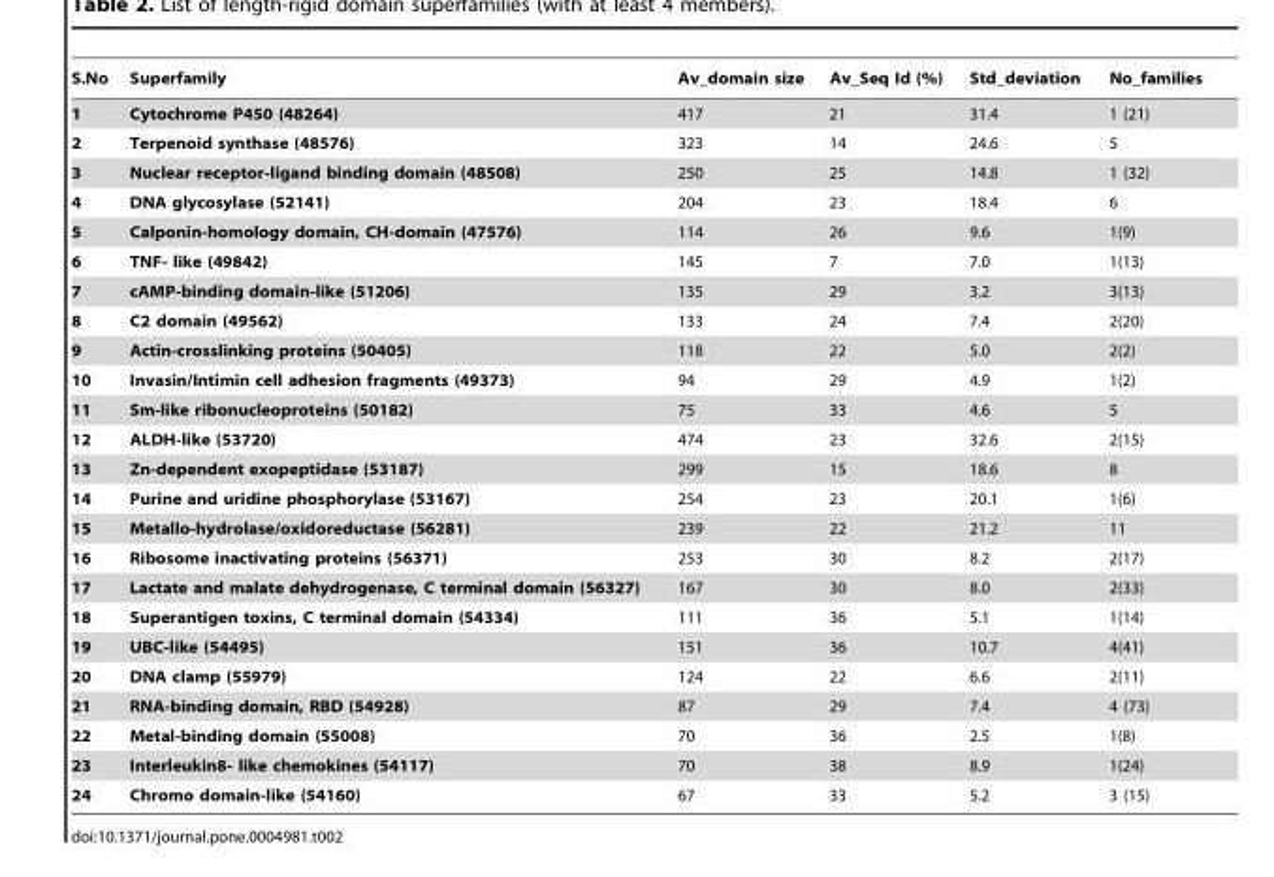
<table><thead><tr><td>S.No</td><td>Superfamily</td><td>Av_domain size</td><td>Av_Seq Id (%)</td><td>Std_deviation</td><td>No_families</td></tr></thead><tbody><tr><td>1</td><td>Cytochrome P450 (48264)</td><td>417</td><td>21</td><td>31.4</td><td>1 (21)</td></tr><tr><td>2</td><td>Terpenoid synthase (48576)</td><td>323</td><td>14</td><td>24.6</td><td>5</td></tr><tr><td>3</td><td>Nuclear receptor-ligand binding domain (48508)</td><td>250</td><td>25</td><td>14.8</td><td>1 (32)</td></tr><tr><td>4</td><td>DNA glycosylase (52141)</td><td>204</td><td>23</td><td>18.4</td><td>6</td></tr><tr><td>5</td><td>Calponin-homology domain, CH-domain (47576)</td><td>114</td><td>26</td><td>9.6</td><td>1(9)</td></tr><tr><td>6</td><td>TNF- like (49842)</td><td>145</td><td>7</td><td>7.0</td><td>1(13)</td></tr><tr><td>7</td><td>cAMP-binding domain-like (51206)</td><td>135</td><td>29</td><td>3.2</td><td>3(13)</td></tr><tr><td>8</td><td>C2 domain (49562)</td><td>133</td><td>24</td><td>7.4</td><td>2(20)</td></tr><tr><td>9</td><td>Actin-crosslinking proteins (50405)</td><td>118</td><td>22</td><td>5.0</td><td>2(2)</td></tr><tr><td>10</td><td>Invasin/Intimin cell adhesion fragments (49373)</td><td>94</td><td>29</td><td>4.9</td><td>1(2)</td></tr><tr><td>11</td><td>Sm-like ribonucleoproteins (50182)</td><td>75</td><td>33</td><td>4.6</td><td>5</td></tr><tr><td>12</td><td>ALDH-like (53720)</td><td>474</td><td>23</td><td>32.6</td><td>2(15)</td></tr><tr><td>13</td><td>Zn-dependent exopeptidase (53187)</td><td>299</td><td>15</td><td>18.6</td><td>8</td></tr><tr><td>14</td><td>Purine and uridine phosphorylase (53167)</td><td>254</td><td>23</td><td>20.1</td><td>1(6)</td></tr><tr><td>15</td><td>Metallo-hydrolase/oxidoreductase (56281)</td><td>239</td><td>22</td><td>21.2</td><td>11</td></tr><tr><td>16</td><td>Ribosome inactivating proteins (56371)</td><td>253</td><td>30</td><td>8.2</td><td>2(17)</td></tr><tr><td>17</td><td>Lactate and malate dehydrogenase, C terminal domain (56327)</td><td>167</td><td>30</td><td>8.0</td><td>2(33)</td></tr><tr><td>18</td><td>Superantigen toxins, C terminal domain (54334)</td><td>111</td><td>36</td><td>5.1</td><td>1(14)</td></tr><tr><td>19</td><td>UBC-like (54495)</td><td>151</td><td>36</td><td>10.7</td><td>4(41)</td></tr><tr><td>20</td><td>DNA clamp (55979)</td><td>124</td><td>22</td><td>6.6</td><td>2(11)</td></tr><tr><td>21</td><td>RNA-binding domain, RBD (54928)</td><td>87</td><td>29</td><td>7.4</td><td>4 (73)</td></tr><tr><td>22</td><td>Metal-binding domain (55008)</td><td>70</td><td>36</td><td>2.5</td><td>1(8)</td></tr><tr><td>23</td><td>Interleukin8- like chemokines (54117)</td><td>70</td><td>38</td><td>8.9</td><td>1(24)</td></tr><tr><td>24</td><td>Chromo domain-like (54160)</td><td>67</td><td>33</td><td>5.2</td><td>3 (15)</td></tr></tbody></table>